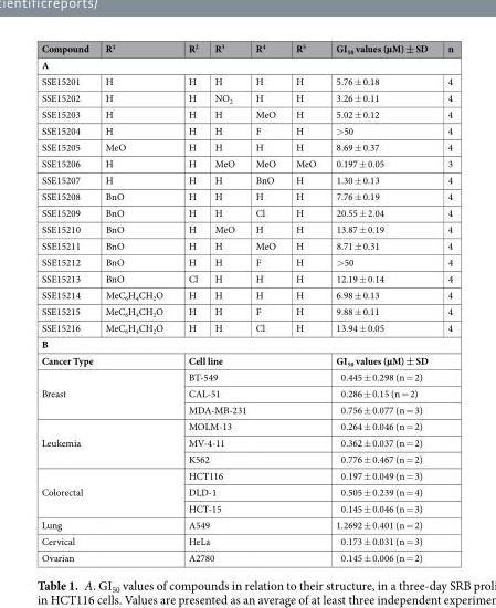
<table><thead><tr><td>Compound</td><td>R<sup>1</sup></td><td>R<sup>2</sup></td><td>R<sup>3</sup></td><td>R<sup>4</sup></td><td>R<sup>5</sup></td><td>GI<sub>50</sub> values (µM) ± SD</td><td>n</td></tr></thead><tbody><tr><td colspan="8">A</td></tr><tr><td>SSE15201</td><td>H</td><td>H</td><td>H</td><td>H</td><td>H</td><td>5.76 ± 0.18</td><td>4</td></tr><tr><td>SSE15202</td><td>H</td><td>H</td><td>NO<sub>2</sub></td><td>H</td><td>H</td><td>3.26 ± 0.11</td><td>4</td></tr><tr><td>SSE15203</td><td>H</td><td>H</td><td>H</td><td>MeO</td><td>H</td><td>5.02 ± 0.12</td><td>4</td></tr><tr><td>SSE15204</td><td>H</td><td>H</td><td>H</td><td>F</td><td>H</td><td>&gt;50</td><td>4</td></tr><tr><td>SSE15205</td><td>MeO</td><td>H</td><td>H</td><td>H</td><td>H</td><td>8.69 ± 0.37</td><td>4</td></tr><tr><td>SSE15206</td><td>H</td><td>H</td><td>MeO</td><td>MeO</td><td>MeO</td><td>0.197 ± 0.05</td><td>3</td></tr><tr><td>SSE15207</td><td>H</td><td>H</td><td>H</td><td>BnO</td><td>H</td><td>1.30 ± 0.13</td><td>4</td></tr><tr><td>SSE15208</td><td>BnO</td><td>H</td><td>H</td><td>H</td><td>H</td><td>7.76 ± 0.19</td><td>4</td></tr><tr><td>SSE15209</td><td>BnO</td><td>H</td><td>H</td><td>Cl</td><td>H</td><td>20.55 ± 2.04</td><td>4</td></tr><tr><td>SSE15210</td><td>BnO</td><td>H</td><td>MeO</td><td>H</td><td>H</td><td>13.87 ± 0.19</td><td>4</td></tr><tr><td>SSE15211</td><td>BnO</td><td>H</td><td>H</td><td>MeO</td><td>H</td><td>8.71 ± 0.31</td><td>4</td></tr><tr><td>SSE15212</td><td>BnO</td><td>H</td><td>H</td><td>F</td><td>H</td><td>&gt;50</td><td>4</td></tr><tr><td>SSE15213</td><td>BnO</td><td>Cl</td><td>H</td><td>H</td><td>H</td><td>12.19 ± 0.14</td><td>4</td></tr><tr><td>SSE15214</td><td>MeC<sub>6</sub>H<sub>4</sub>CH<sub>2</sub>O</td><td>H</td><td>H</td><td>H</td><td>H</td><td>6.98 ± 0.13</td><td>4</td></tr><tr><td>SSE15215</td><td>MeC<sub>6</sub>H<sub>4</sub>CH<sub>2</sub>O</td><td>H</td><td>H</td><td>F</td><td>H</td><td>9.88 ± 0.11</td><td>4</td></tr><tr><td>SSE15216</td><td>MeC<sub>6</sub>H<sub>4</sub>CH<sub>2</sub>O</td><td>H</td><td>H</td><td>Cl</td><td>H</td><td>13.94 ± 0.05</td><td>4</td></tr><tr><td colspan="8">B</td></tr><tr><td colspan="2">Cancer Type</td><td colspan="4">Cell line</td><td colspan="2">GI<sub>50</sub> values (µM) ± SD</td></tr><tr><td rowspan="3" colspan="2">Breast</td><td colspan="4">BT-549</td><td colspan="2">0.445 ± 0.298 (n = 2)</td></tr><tr><td colspan="4">CAL-51</td><td colspan="2">0.286 ± 0.15 (n = 2)</td></tr><tr><td colspan="4">MDA-MB-231</td><td colspan="2">0.756 ± 0.077 (n = 3)</td></tr><tr><td rowspan="3" colspan="2">Leukemia</td><td colspan="4">MOLM-13</td><td colspan="2">0.264 ± 0.046 (n = 2)</td></tr><tr><td colspan="4">MV-4-11</td><td colspan="2">0.362 ± 0.037 (n = 2)</td></tr><tr><td colspan="4">K562</td><td colspan="2">0.776 ± 0.467 (n = 2)</td></tr><tr><td rowspan="3" colspan="2">Colorectal</td><td colspan="4">HCT116</td><td colspan="2">0.197 ± 0.049 (n = 3)</td></tr><tr><td colspan="4">DLD-1</td><td colspan="2">0.505 ± 0.239 (n = 4)</td></tr><tr><td colspan="4">HCT-15</td><td colspan="2">0.145 ± 0.046 (n = 3)</td></tr><tr><td colspan="2">Lung</td><td colspan="4">A549</td><td colspan="2">1.2692 ± 0.401 (n = 2)</td></tr><tr><td colspan="2">Cervical</td><td colspan="4">HeLa</td><td colspan="2">0.173 ± 0.031 (n = 3)</td></tr><tr><td colspan="2">Ovarian</td><td colspan="4">A2780</td><td colspan="2">0.145 ± 0.006 (n = 2)</td></tr></tbody></table>